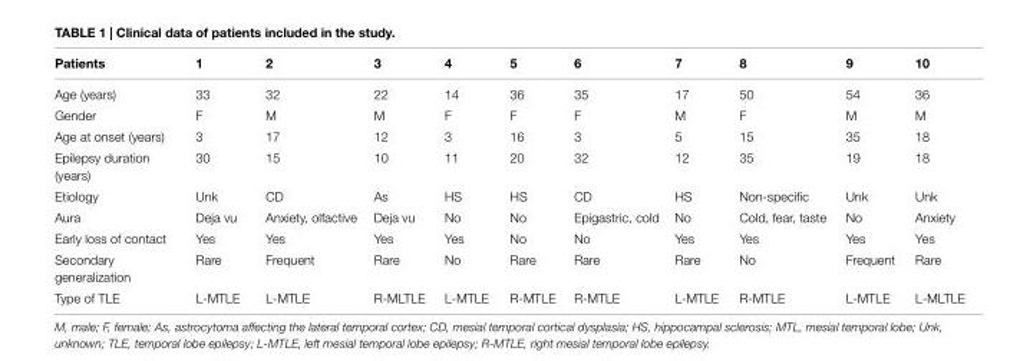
<table><thead><tr><td>Patients</td><td>1</td><td>2</td><td>3</td><td>4</td><td>5</td><td>6</td><td>7</td><td>8</td><td>9</td><td>10</td></tr></thead><tbody><tr><td>Age (years)</td><td>33</td><td>32</td><td>22</td><td>14</td><td>36</td><td>35</td><td>17</td><td>50</td><td>54</td><td>36</td></tr><tr><td>Gender</td><td>F</td><td>M</td><td>M</td><td>F</td><td>F</td><td>F</td><td>M</td><td>F</td><td>M</td><td>M</td></tr><tr><td>Age at onset (years)</td><td>3</td><td>17</td><td>12</td><td>3</td><td>16</td><td>3</td><td>5</td><td>15</td><td>35</td><td>18</td></tr><tr><td>Epilepsy duration (years)</td><td>30</td><td>15</td><td>10</td><td>11</td><td>20</td><td>32</td><td>12</td><td>35</td><td>19</td><td>18</td></tr><tr><td>Etiology</td><td>Unk</td><td>CD</td><td>As</td><td>HS</td><td>HS</td><td>CD</td><td>HS</td><td>Non-specific</td><td>Unk</td><td>Unk</td></tr><tr><td>Aura</td><td>Deja vu</td><td>Anxiety, olfactive</td><td>Deja vu</td><td>No</td><td>No</td><td>Epigastric, cold</td><td>No</td><td>Cold, fear, taste</td><td>No</td><td>Anxiety</td></tr><tr><td>Early loss of contact</td><td>Yes</td><td>Yes</td><td>Yes</td><td>Yes</td><td>No</td><td>No</td><td>Yes</td><td>Yes</td><td>Yes</td><td>Yes</td></tr><tr><td>Secondary generalization</td><td>Rare</td><td>Frequent</td><td>Rare</td><td>No</td><td>Rare</td><td>Rare</td><td>Rare</td><td>No</td><td>Frequent</td><td>Rare</td></tr><tr><td>Type of TLE</td><td>L-MTLE</td><td>L-MTLE</td><td>R-MLTLE</td><td>L-MTLE</td><td>R-MTLE</td><td>R-MTLE</td><td>L-MTLE</td><td>R-MTLE</td><td>L-MTLE</td><td>L-MLTLE</td></tr></tbody></table>